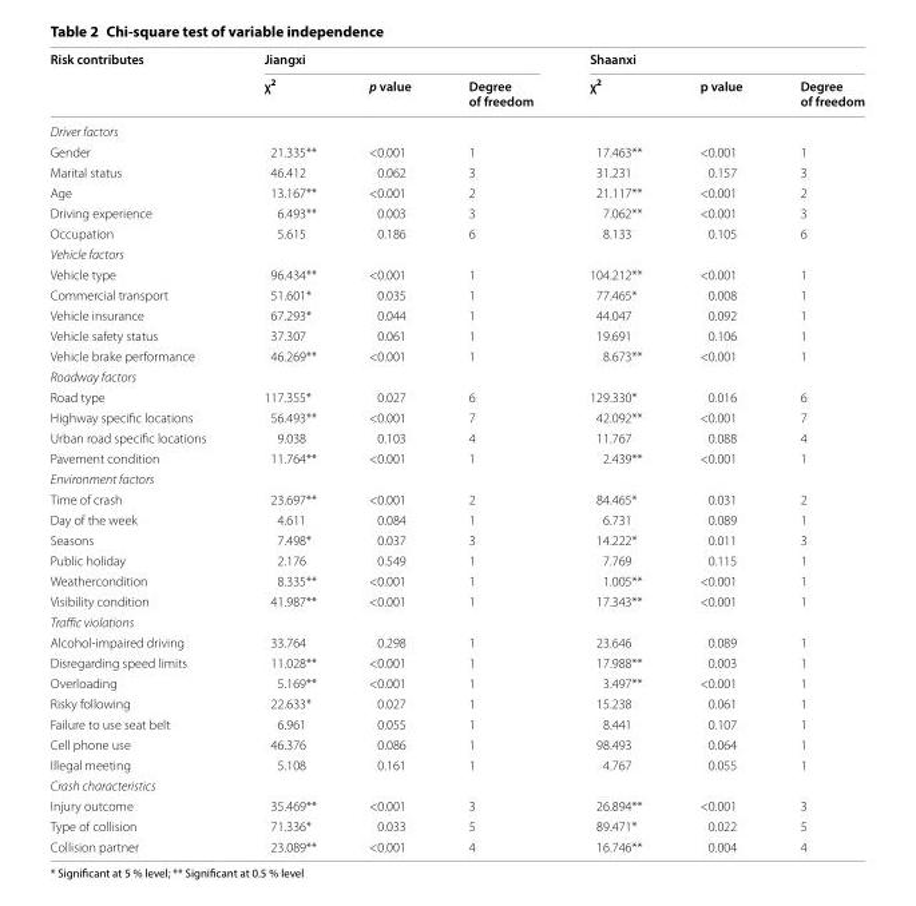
<table><thead><tr><td rowspan="2">Risk contributes</td><td colspan="3">Jiangxi</td><td colspan="3">Shaanxi</td></tr><tr><td>χ<sup>2</sup></td><td>p value</td><td>Degree of freedom</td><td>χ<sup>2</sup></td><td>p value</td><td>Degree of freedom</td></tr></thead><tbody><tr><td colspan="7">Driver factors</td></tr><tr><td>Gender</td><td>21.335**</td><td>&lt;0.001</td><td>1</td><td>17.463**</td><td>&lt;0.001</td><td>1</td></tr><tr><td>Marital status</td><td>46.412</td><td>0.062</td><td>3</td><td>31.231</td><td>0.157</td><td>3</td></tr><tr><td>Age</td><td>13.167**</td><td>&lt;0.001</td><td>2</td><td>21.117**</td><td>&lt;0.001</td><td>2</td></tr><tr><td>Driving experience</td><td>6.493**</td><td>0.003</td><td>3</td><td>7.062**</td><td>&lt;0.001</td><td>3</td></tr><tr><td>Occupation</td><td>5.615</td><td>0.186</td><td>6</td><td>8.133</td><td>0.105</td><td>6</td></tr><tr><td colspan="7">Vehicle factors</td></tr><tr><td>Vehicle type</td><td>96.434**</td><td>&lt;0.001</td><td>1</td><td>104.212**</td><td>&lt;0.001</td><td>1</td></tr><tr><td>Commercial transport</td><td>51.601*</td><td>0.035</td><td>1</td><td>77.465*</td><td>0.008</td><td>1</td></tr><tr><td>Vehicle insurance</td><td>67.293*</td><td>0.044</td><td>1</td><td>44.047</td><td>0.092</td><td>1</td></tr><tr><td>Vehicle safety status</td><td>37.307</td><td>0.061</td><td>1</td><td>19.691</td><td>0.106</td><td>1</td></tr><tr><td>Vehicle brake performance</td><td>46.269**</td><td>&lt;0.001</td><td>1</td><td>8.673**</td><td>&lt;0.001</td><td>1</td></tr><tr><td colspan="7">Roadway factors</td></tr><tr><td>Road type</td><td>117.355*</td><td>0.027</td><td>6</td><td>129.330*</td><td>0.016</td><td>6</td></tr><tr><td>Highway specific locations</td><td>56.493**</td><td>&lt;0.001</td><td>7</td><td>42.092**</td><td>&lt;0.001</td><td>7</td></tr><tr><td>Urban road specific locations</td><td>9.038</td><td>0.103</td><td>4</td><td>11.767</td><td>0.088</td><td>4</td></tr><tr><td>Pavement condition</td><td>11.764**</td><td>&lt;0.001</td><td>1</td><td>2.439**</td><td>&lt;0.001</td><td>1</td></tr><tr><td colspan="7">Environment factors</td></tr><tr><td>Time of crash</td><td>23.697**</td><td>&lt;0.001</td><td>2</td><td>84.465*</td><td>0.031</td><td>2</td></tr><tr><td>Day of the week</td><td>4.611</td><td>0.084</td><td>1</td><td>6.731</td><td>0.089</td><td>1</td></tr><tr><td>Seasons</td><td>7.498*</td><td>0.037</td><td>3</td><td>14.222*</td><td>0.011</td><td>3</td></tr><tr><td>Public holiday</td><td>2.176</td><td>0.549</td><td>1</td><td>7.769</td><td>0.115</td><td>1</td></tr><tr><td>Weathercondition</td><td>8.335**</td><td>&lt;0.001</td><td>1</td><td>1.005**</td><td>&lt;0.001</td><td>1</td></tr><tr><td>Visibility condition</td><td>41.987**</td><td>&lt;0.001</td><td>1</td><td>17.343**</td><td>&lt;0.001</td><td>1</td></tr><tr><td colspan="7">Traffic violations</td></tr><tr><td>Alcohol-impaired driving</td><td>33.764</td><td>0.298</td><td>1</td><td>23.646</td><td>0.089</td><td>1</td></tr><tr><td>Disregarding speed limits</td><td>11.028**</td><td>&lt;0.001</td><td>1</td><td>17.988**</td><td>0.003</td><td>1</td></tr><tr><td>Overloading</td><td>5.169**</td><td>&lt;0.001</td><td>1</td><td>3.497**</td><td>&lt;0.001</td><td>1</td></tr><tr><td>Risky following</td><td>22.633*</td><td>0.027</td><td>1</td><td>15.238</td><td>0.061</td><td>1</td></tr><tr><td>Failure to use seat belt</td><td>6.961</td><td>0.055</td><td>1</td><td>8.441</td><td>0.107</td><td>1</td></tr><tr><td>Cell phone use</td><td>46.376</td><td>0.086</td><td>1</td><td>98.493</td><td>0.064</td><td>1</td></tr><tr><td>Illegal meeting</td><td>5.108</td><td>0.161</td><td>1</td><td>4.767</td><td>0.055</td><td>1</td></tr><tr><td colspan="7">Crash characteristics</td></tr><tr><td>Injury outcome</td><td>35.469**</td><td>&lt;0.001</td><td>3</td><td>26.894**</td><td>&lt;0.001</td><td>3</td></tr><tr><td>Type of collision</td><td>71.336*</td><td>0.033</td><td>5</td><td>89.471*</td><td>0.022</td><td>5</td></tr><tr><td>Collision partner</td><td>23.089**</td><td>&lt;0.001</td><td>4</td><td>16.746**</td><td>0.004</td><td>4</td></tr></tbody></table>